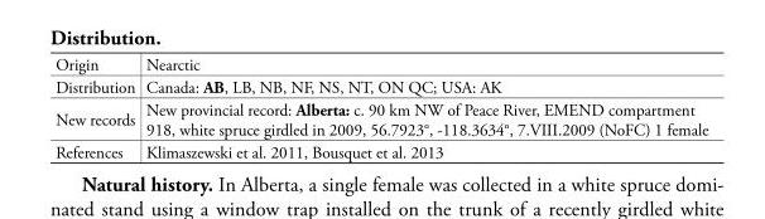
<table><tbody><tr><td>Origin</td><td>Nearctic</td></tr><tr><td>Distribution</td><td>Canada: AB, LB, NB, NF, NS, NT, ON QC; USA: AK</td></tr><tr><td>New records</td><td>New provincial record: Alberta: c. 90 km NW of Peace River, EMEND compartment 918, white spruce girdled in 2009, 56.7923°, -118.3634°, 7.VIII.2009 (NoFC) 1 female</td></tr><tr><td>References</td><td>Klimaszewski et al. 2011, Bousquet et al. 2013</td></tr></tbody></table>